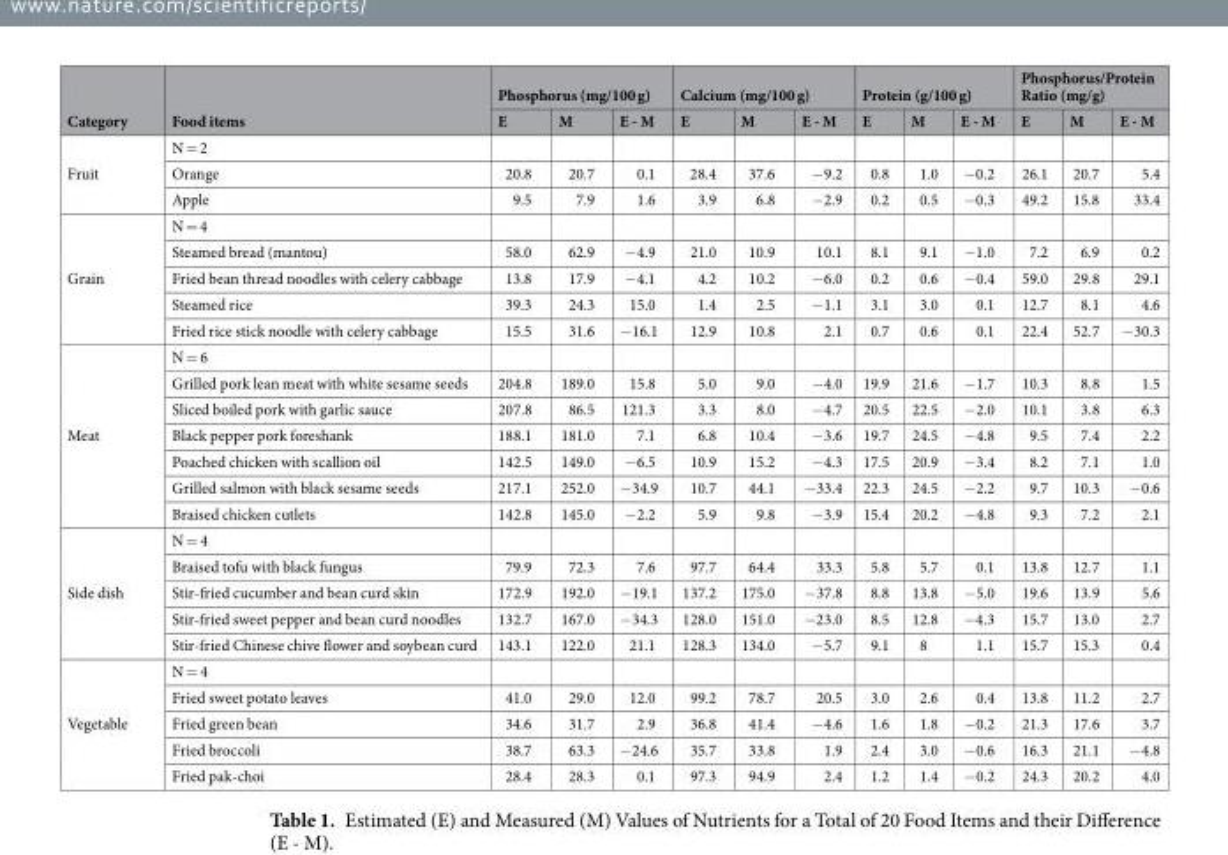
<table><thead><tr><td rowspan="2">Category</td><td rowspan="2">Food items</td><td colspan="3">Phosphorus (mg/100 g)</td><td colspan="3">Calcium (mg/100 g)</td><td colspan="3">Protein (g/100 g)</td><td colspan="3">Phosphorus/Protein Ratio (mg/g)</td></tr><tr><td>E</td><td>M</td><td>E - M</td><td>E</td><td>M</td><td>E - M</td><td>E</td><td>M</td><td>E - M</td><td>E</td><td>M</td><td>E - M</td></tr></thead><tbody><tr><td rowspan="3">Fruit</td><td>N = 2</td><td></td><td></td><td></td><td></td><td></td><td></td><td></td><td></td><td></td><td></td><td></td><td></td></tr><tr><td>Orange</td><td>20.8</td><td>20.7</td><td>0.1</td><td>28.4</td><td>37.6</td><td>−9.2</td><td>0.8</td><td>1.0</td><td>−0.2</td><td>26.1</td><td>20.7</td><td>5.4</td></tr><tr><td>Apple</td><td>9.5</td><td>7.9</td><td>1.6</td><td>3.9</td><td>6.8</td><td>−2.9</td><td>0.2</td><td>0.5</td><td>−0.3</td><td>49.2</td><td>15.8</td><td>33.4</td></tr><tr><td rowspan="5">Grain</td><td>N = 4</td><td></td><td></td><td></td><td></td><td></td><td></td><td></td><td></td><td></td><td></td><td></td><td></td></tr><tr><td>Steamed bread (mantou)</td><td>58.0</td><td>62.9</td><td>−4.9</td><td>21.0</td><td>10.9</td><td>10.1</td><td>8.1</td><td>9.1</td><td>−1.0</td><td>7.2</td><td>6.9</td><td>0.2</td></tr><tr><td>Fried bean thread noodles with celery cabbage</td><td>13.8</td><td>17.9</td><td>−4.1</td><td>4.2</td><td>10.2</td><td>−6.0</td><td>0.2</td><td>0.6</td><td>−0.4</td><td>59.0</td><td>29.8</td><td>29.1</td></tr><tr><td>Steamed rice</td><td>39.3</td><td>24.3</td><td>15.0</td><td>1.4</td><td>2.5</td><td>−1.1</td><td>3.1</td><td>3.0</td><td>0.1</td><td>12.7</td><td>8.1</td><td>4.6</td></tr><tr><td>Fried rice stick noodle with celery cabbage</td><td>15.5</td><td>31.6</td><td>−16.1</td><td>12.9</td><td>10.8</td><td>2.1</td><td>0.7</td><td>0.6</td><td>0.1</td><td>22.4</td><td>52.7</td><td>−30.3</td></tr><tr><td rowspan="7">Meat</td><td>N = 6</td><td></td><td></td><td></td><td></td><td></td><td></td><td></td><td></td><td></td><td></td><td></td><td></td></tr><tr><td>Grilled pork lean meat with white sesame seeds</td><td>204.8</td><td>189.0</td><td>15.8</td><td>5.0</td><td>9.0</td><td>−4.0</td><td>19.9</td><td>21.6</td><td>−1.7</td><td>10.3</td><td>8.8</td><td>1.5</td></tr><tr><td>Sliced boiled pork with garlic sauce</td><td>207.8</td><td>86.5</td><td>121.3</td><td>3.3</td><td>8.0</td><td>−4.7</td><td>20.5</td><td>22.5</td><td>−2.0</td><td>10.1</td><td>3.8</td><td>6.3</td></tr><tr><td>Black pepper pork foreshank</td><td>188.1</td><td>181.0</td><td>7.1</td><td>6.8</td><td>10.4</td><td>−3.6</td><td>19.7</td><td>24.5</td><td>−4.8</td><td>9.5</td><td>7.4</td><td>2.2</td></tr><tr><td>Poached chicken with scallion oil</td><td>142.5</td><td>149.0</td><td>−6.5</td><td>10.9</td><td>15.2</td><td>−4.3</td><td>17.5</td><td>20.9</td><td>−3.4</td><td>8.2</td><td>7.1</td><td>1.0</td></tr><tr><td>Grilled salmon with black sesame seeds</td><td>217.1</td><td>252.0</td><td>−34.9</td><td>10.7</td><td>44.1</td><td>−33.4</td><td>22.3</td><td>24.5</td><td>−2.2</td><td>9.7</td><td>10.3</td><td>−0.6</td></tr><tr><td>Braised chicken cutlets</td><td>142.8</td><td>145.0</td><td>−2.2</td><td>5.9</td><td>9.8</td><td>−3.9</td><td>15.4</td><td>20.2</td><td>−4.8</td><td>9.3</td><td>7.2</td><td>2.1</td></tr><tr><td rowspan="5">Side dish</td><td>N = 4</td><td></td><td></td><td></td><td></td><td></td><td></td><td></td><td></td><td></td><td></td><td></td><td></td></tr><tr><td>Braised tofu with black fungus</td><td>79.9</td><td>72.3</td><td>7.6</td><td>97.7</td><td>64.4</td><td>33.3</td><td>5.8</td><td>5.7</td><td>0.1</td><td>13.8</td><td>12.7</td><td>1.1</td></tr><tr><td>Stir-fried cucumber and bean curd skin</td><td>172.9</td><td>192.0</td><td>−19.1</td><td>137.2</td><td>175.0</td><td>−37.8</td><td>8.8</td><td>13.8</td><td>−5.0</td><td>19.6</td><td>13.9</td><td>5.6</td></tr><tr><td>Stir-fried sweet pepper and bean curd noodles</td><td>132.7</td><td>167.0</td><td>−34.3</td><td>128.0</td><td>151.0</td><td>−23.0</td><td>8.5</td><td>12.8</td><td>−4.3</td><td>15.7</td><td>13.0</td><td>2.7</td></tr><tr><td>Stir-fried Chinese chive flower and soybean curd</td><td>143.1</td><td>122.0</td><td>21.1</td><td>128.3</td><td>134.0</td><td>−5.7</td><td>9.1</td><td>8</td><td>1.1</td><td>15.7</td><td>15.3</td><td>0.4</td></tr><tr><td rowspan="5">Vegetable</td><td>N = 4</td><td></td><td></td><td></td><td></td><td></td><td></td><td></td><td></td><td></td><td></td><td></td><td></td></tr><tr><td>Fried sweet potato leaves</td><td>41.0</td><td>29.0</td><td>12.0</td><td>99.2</td><td>78.7</td><td>20.5</td><td>3.0</td><td>2.6</td><td>0.4</td><td>13.8</td><td>11.2</td><td>2.7</td></tr><tr><td>Fried green bean</td><td>34.6</td><td>31.7</td><td>2.9</td><td>36.8</td><td>41.4</td><td>−4.6</td><td>1.6</td><td>1.8</td><td>−0.2</td><td>21.3</td><td>17.6</td><td>3.7</td></tr><tr><td>Fried broccoli</td><td>38.7</td><td>63.3</td><td>−24.6</td><td>35.7</td><td>33.8</td><td>1.9</td><td>2.4</td><td>3.0</td><td>−0.6</td><td>16.3</td><td>21.1</td><td>−4.8</td></tr><tr><td>Fried pak-choi</td><td>28.4</td><td>28.3</td><td>0.1</td><td>97.3</td><td>94.9</td><td>2.4</td><td>1.2</td><td>1.4</td><td>−0.2</td><td>24.3</td><td>20.2</td><td>4.0</td></tr></tbody></table>